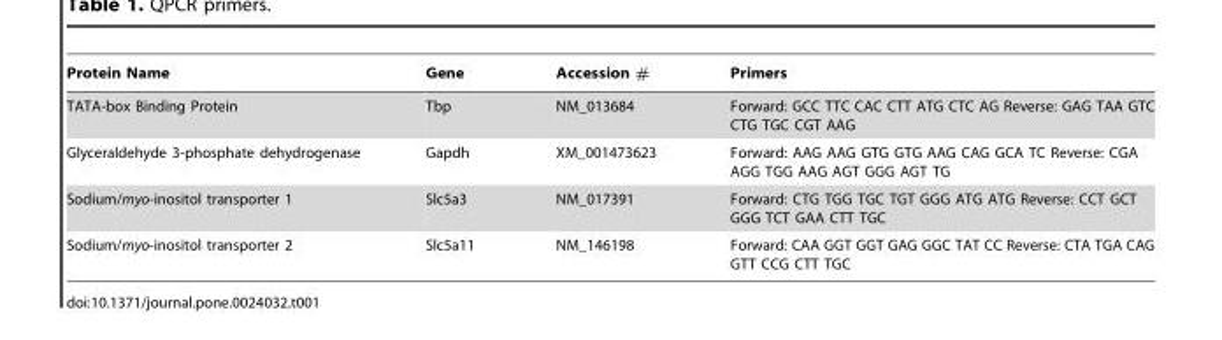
<table><thead><tr><td>Protein Name</td><td>Gene</td><td>Accession #</td><td>Primers</td></tr></thead><tbody><tr><td>TATA-box Binding Protein</td><td>Tbp</td><td>NM_013684</td><td>Forward: GCC TTC CAC CTT ATG CTC AG Reverse: GAG TAA GTC CTG TGC CGT AAG</td></tr><tr><td>Glyceraldehyde 3-phosphate dehydrogenase</td><td>Gapdh</td><td>XM_001473623</td><td>Forward: AAG AAG GTG GTG AAG CAG GCA TC Reverse: CGA AGG TGG AAG AGT GGG AGT TG</td></tr><tr><td>Sodium/myo-inositol transporter 1</td><td>Slc5a3</td><td>NM_017391</td><td>Forward: CTG TGG TGC TGT GGG ATG ATG Reverse: CCT GCT GGG TCT GAA CTT TGC</td></tr><tr><td>Sodium/myo-inositol transporter 2</td><td>Slc5a11</td><td>NM_146198</td><td>Forward: CAA GGT GGT GAG GGC TAT CC Reverse: CTA TGA CAG GTT CCG CTT TGC</td></tr></tbody></table>